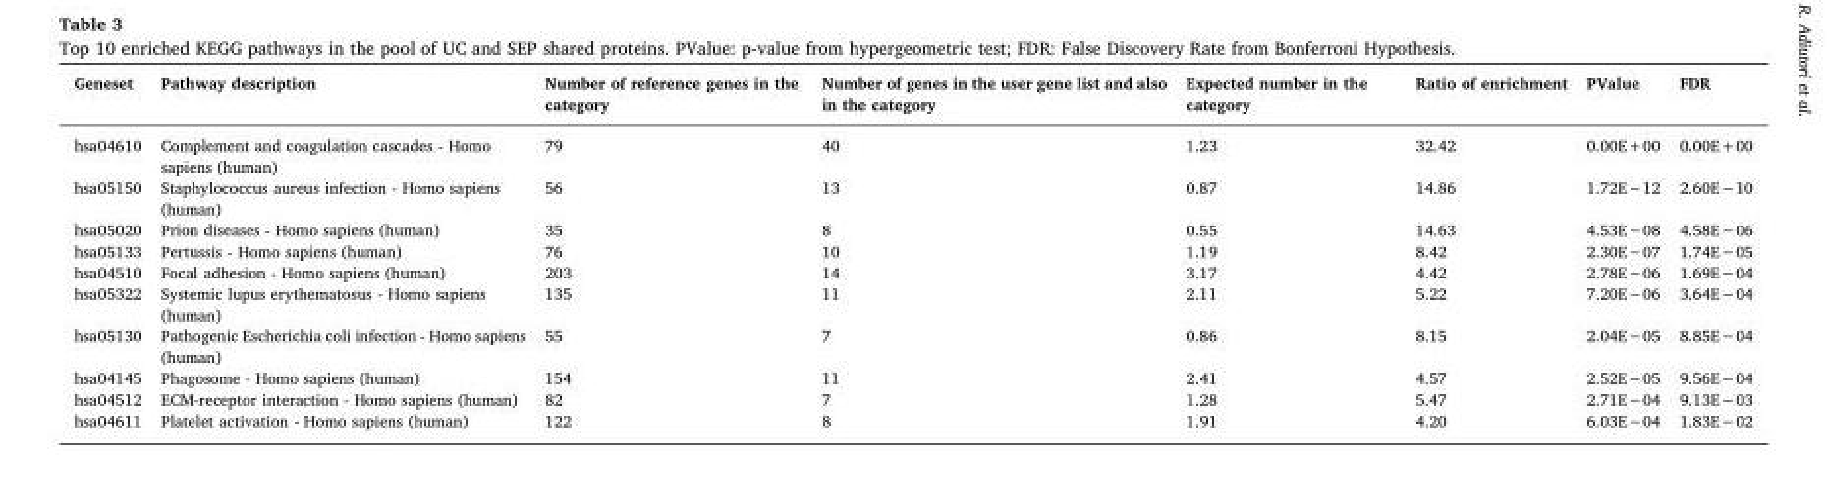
<table><thead><tr><td>Geneset</td><td>Pathway description</td><td>Number of reference genes in the category</td><td>Number of genes in the user gene list and also in the category</td><td>Expected number in the category</td><td>Ratio of enrichment</td><td>PValue</td><td>FDR</td></tr></thead><tbody><tr><td>hsa04610</td><td>Complement and coagulation cascades - Homo sapiens (human)</td><td>79</td><td>40</td><td>1.23</td><td>32.42</td><td>0.00E+00</td><td>0.00E+00</td></tr><tr><td>hsa05150</td><td>Staphylococcus aureus infection - Homo sapiens (human)</td><td>56</td><td>13</td><td>0.87</td><td>14.86</td><td>1.72E−12</td><td>2.60E−10</td></tr><tr><td>hsa05020</td><td>Prion diseases - Homo sapiens (human)</td><td>35</td><td>8</td><td>0.55</td><td>14.63</td><td>4.53E−08</td><td>4.58E−06</td></tr><tr><td>hsa05133</td><td>Pertussis - Homo sapiens (human)</td><td>76</td><td>10</td><td>1.19</td><td>8.42</td><td>2.30E−07</td><td>1.74E−05</td></tr><tr><td>hsa04510</td><td>Focal adhesion - Homo sapiens (human)</td><td>203</td><td>14</td><td>3.17</td><td>4.42</td><td>2.78E−06</td><td>1.69E−04</td></tr><tr><td>hsa05322</td><td>Systemic lupus erythematosus - Homo sapiens (human)</td><td>135</td><td>11</td><td>2.11</td><td>5.22</td><td>7.20E−06</td><td>3.64E−04</td></tr><tr><td>hsa05130</td><td>Pathogenic Escherichia coli infection - Homo sapiens (human)</td><td>55</td><td>7</td><td>0.86</td><td>8.15</td><td>2.04E−05</td><td>8.85E−04</td></tr><tr><td>hsa04145</td><td>Phagosome - Homo sapiens (human)</td><td>154</td><td>11</td><td>2.41</td><td>4.57</td><td>2.52E−05</td><td>9.56E−04</td></tr><tr><td>hsa04512</td><td>ECM-receptor interaction - Homo sapiens (human)</td><td>82</td><td>7</td><td>1.28</td><td>5.47</td><td>2.71E−04</td><td>9.13E−03</td></tr><tr><td>hsa04611</td><td>Platelet activation - Homo sapiens (human)</td><td>122</td><td>8</td><td>1.91</td><td>4.20</td><td>6.03E−04</td><td>1.83E−02</td></tr></tbody></table>